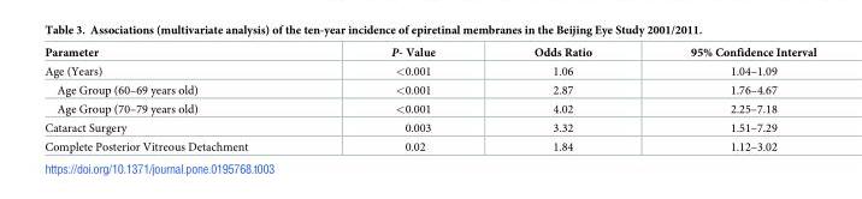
<table><thead><tr><td>Parameter</td><td>P- Value</td><td>Odds Ratio</td><td>95% Confidence Interval</td></tr></thead><tbody><tr><td>Age (Years)</td><td>&lt;0.001</td><td>1.06</td><td>1.04–1.09</td></tr><tr><td>Age Group (60–69 years old)</td><td>&lt;0.001</td><td>2.87</td><td>1.76–4.67</td></tr><tr><td>Age Group (70–79 years old)</td><td>&lt;0.001</td><td>4.02</td><td>2.25–7.18</td></tr><tr><td>Cataract Surgery</td><td>0.003</td><td>3.32</td><td>1.51–7.29</td></tr><tr><td>Complete Posterior Vitreous Detachment</td><td>0.02</td><td>1.84</td><td>1.12–3.02</td></tr></tbody></table>